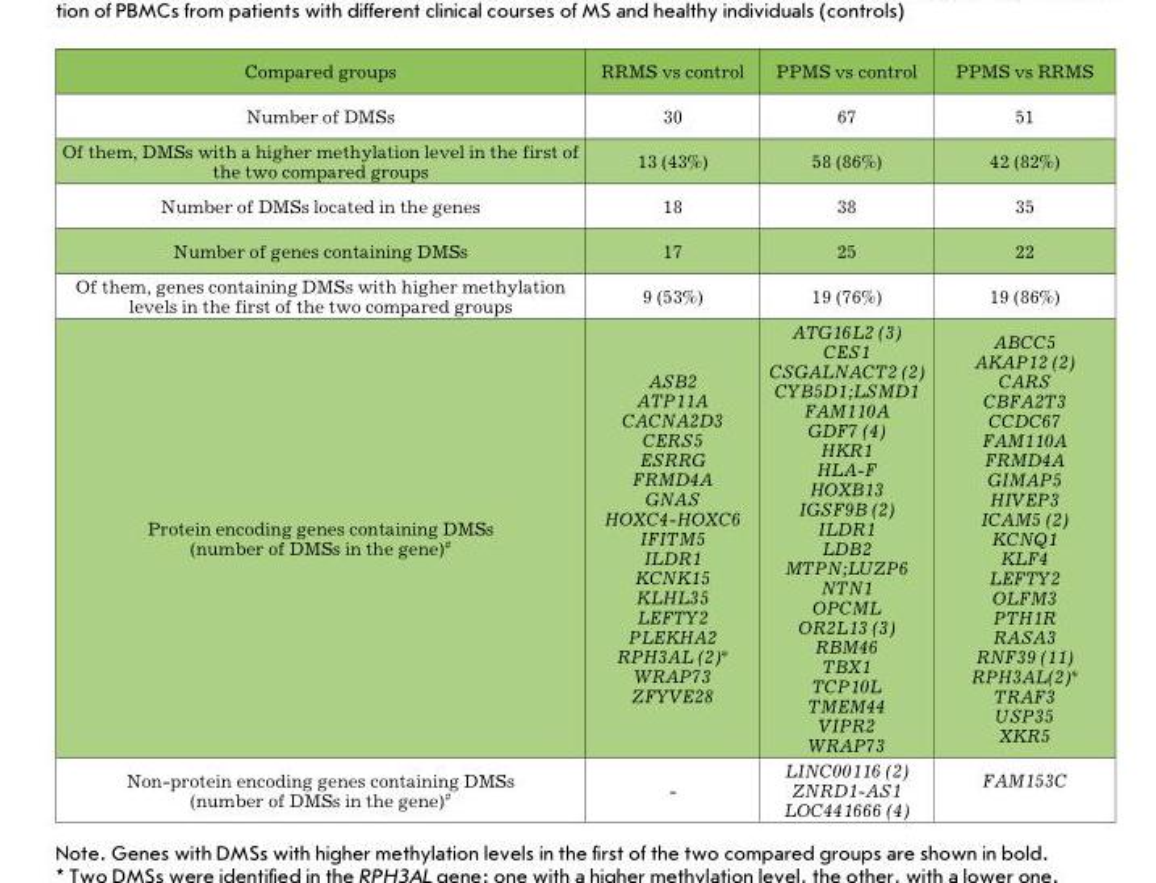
<table><thead><tr><td>Compared groups</td><td>RRMS vs control</td><td>PPMS vs control</td><td>PPMS vs RRMS</td></tr></thead><tbody><tr><td>Number of DMSs</td><td>30</td><td>67</td><td>51</td></tr><tr><td>Of them, DMSs with a higher methylation level in the first of the two compared groups</td><td>13 (43%)</td><td>58 (86%)</td><td>42 (82%)</td></tr><tr><td>Number of DMSs located in the genes</td><td>18</td><td>38</td><td>35</td></tr><tr><td>Number of genes containing DMSs</td><td>17</td><td>25</td><td>22</td></tr><tr><td>Of them, genes containing DMSs with higher methylation levels in the first of the two compared groups</td><td>9 (53%)</td><td>19 (76%)</td><td>19 (86%)</td></tr><tr><td>Protein encoding genes containing DMSs (number of DMSs in the gene)<sup>#</sup></td><td>ASB2 ATP11A CACNA2D3 CERS5 ESRRG FRMD4A GNAS HOXC4-HOXC6 IFITM5 ILDR1 KCNK15 KLHL35 LEFTY2 PLEKHA2 RPH3AL (2)* WRAP73 ZFYVE28</td><td>ATG16L2 (3) CES1 CSGALNACT2 (2) CYB5D1;LSMD1 FAM110A GDF7 (4) HKR1 HLA-F HOXB13 IGSF9B (2) ILDR1 LDB2 MTPN;LUZP6 NTN1 OPCML OR2L13 (3) RBM46 TBX1 TCP10L TMEM44 VIPR2 WRAP73</td><td>ABCC5 AKAP12 (2) CARS CBFA2T3 CCDC67 FAM110A FRMD4A GIMAP5 HIVEP3 ICAM5 (2) KCNQ1 KLF4 LEFTY2 OLFM3 PTH1R RASA3 RNF39 (11) RPH3AL(2)* TRAF3 USP35 XKR5</td></tr><tr><td>Non-protein encoding genes containing DMSs (number of DMSs in the gene)<sup>#</sup></td><td>-</td><td>LINC00116 (2) ZNRD1-AS1 LOC441666 (4)</td><td>FAM153C</td></tr></tbody></table>